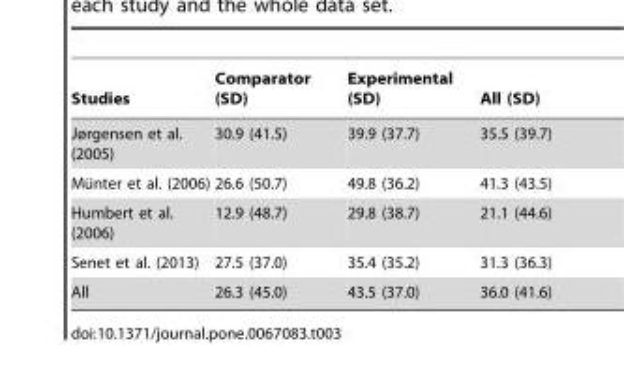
<table><thead><tr><td>Studies</td><td>Comparator (SD)</td><td>Experimental (SD)</td><td>All (SD)</td></tr></thead><tbody><tr><td>Jørgensen et al. (2005)</td><td>30.9 (41.5)</td><td>39.9 (37.7)</td><td>35.5 (39.7)</td></tr><tr><td>Mu¨nter et al. (2006)</td><td>26.6 (50.7)</td><td>49.8 (36.2)</td><td>41.3 (43.5)</td></tr><tr><td>Humbert et al. (2006)</td><td>12.9 (48.7)</td><td>29.8 (38.7)</td><td>21.1 (44.6)</td></tr><tr><td>Senet et al. (2013)</td><td>27.5 (37.0)</td><td>35.4 (35.2)</td><td>31.3 (36.3)</td></tr><tr><td>All</td><td>26.3 (45.0)</td><td>43.5 (37.0)</td><td>36.0 (41.6)</td></tr></tbody></table>